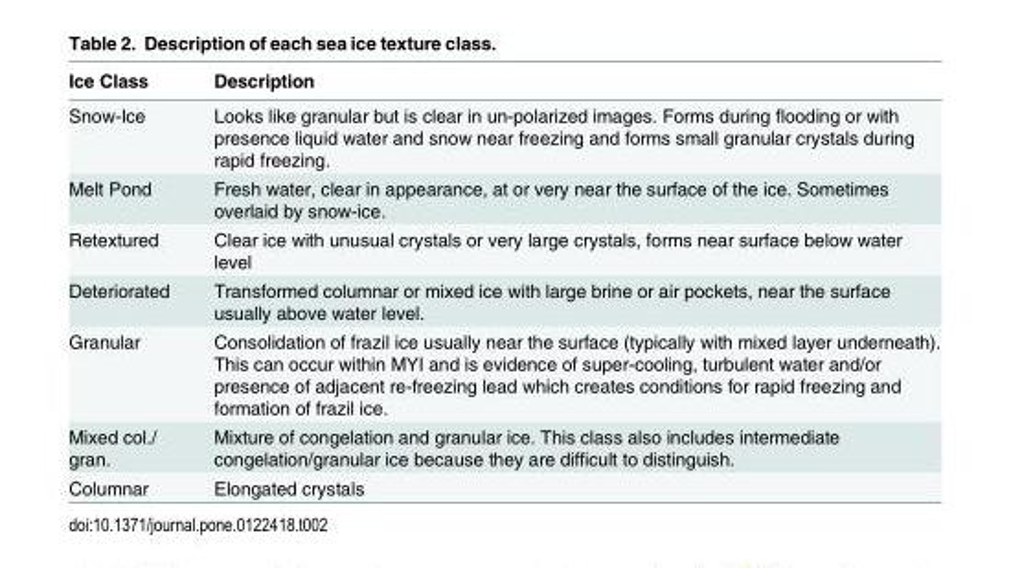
<table><thead><tr><td>Ice Class</td><td>Description</td></tr></thead><tbody><tr><td>Snow-Ice</td><td>Looks like granular but is clear in un-polarized images. Forms during flooding or with presence liquid water and snow near freezing and forms small granular crystals during rapid freezing.</td></tr><tr><td>Melt Pond</td><td>Fresh water, clear in appearance, at or very near the surface of the ice. Sometimes overlaid by snow-ice.</td></tr><tr><td>Retextured</td><td>Clear ice with unusual crystals or very large crystals, forms near surface below water level</td></tr><tr><td>Deteriorated</td><td>Transformed columnar or mixed ice with large brine or air pockets, near the surface usually above water level.</td></tr><tr><td>Granular</td><td>Consolidation of frazil ice usually near the surface (typically with mixed layer underneath). This can occur within MYI and is evidence of super-cooling, turbulent water and/or presence of adjacent re-freezing lead which creates conditions for rapid freezing and formation of frazil ice.</td></tr><tr><td>Mixed col./ gran.</td><td>Mixture of congelation and granular ice. This class also includes intermediate congelation/granular ice because they are difficult to distinguish.</td></tr><tr><td>Columnar</td><td>Elongated crystals</td></tr></tbody></table>